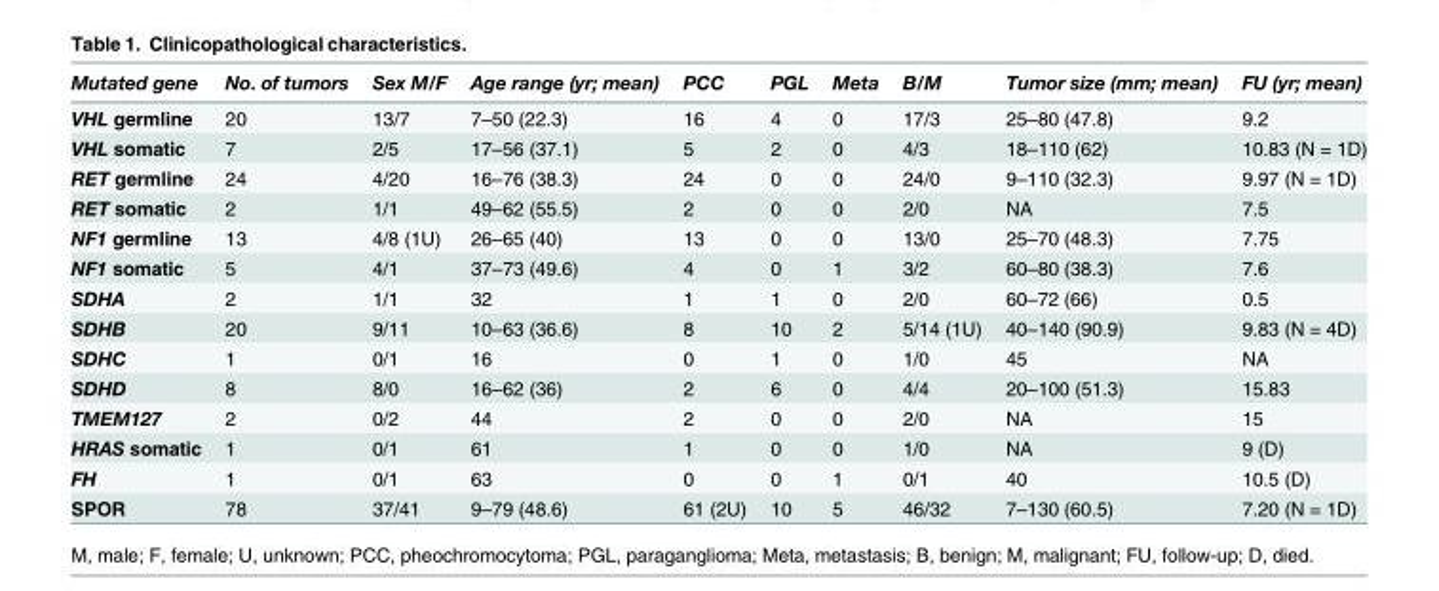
<table><thead><tr><td>Mutated gene</td><td>No. of tumors</td><td>Sex M/F</td><td>Age range (yr; mean)</td><td>PCC</td><td>PGL</td><td>Meta</td><td>B/M</td><td>Tumor size (mm; mean)</td><td>FU (yr; mean)</td></tr></thead><tbody><tr><td>VHL germline</td><td>20</td><td>13/7</td><td>7–50 (22.3)</td><td>16</td><td>4</td><td>0</td><td>17/3</td><td>25–80 (47.8)</td><td>9.2</td></tr><tr><td>VHL somatic</td><td>7</td><td>2/5</td><td>17–56 (37.1)</td><td>5</td><td>2</td><td>0</td><td>4/3</td><td>18–110 (62)</td><td>10.83 (N = 1D)</td></tr><tr><td>RET germline</td><td>24</td><td>4/20</td><td>16–76 (38.3)</td><td>24</td><td>0</td><td>0</td><td>24/0</td><td>9–110 (32.3)</td><td>9.97 (N = 1D)</td></tr><tr><td>RET somatic</td><td>2</td><td>1/1</td><td>49–62 (55.5)</td><td>2</td><td>0</td><td>0</td><td>2/0</td><td>NA</td><td>7.5</td></tr><tr><td>NF1 germline</td><td>13</td><td>4/8 (1U)</td><td>26–65 (40)</td><td>13</td><td>0</td><td>0</td><td>13/0</td><td>25–70 (48.3)</td><td>7.75</td></tr><tr><td>NF1 somatic</td><td>5</td><td>4/1</td><td>37–73 (49.6)</td><td>4</td><td>0</td><td>1</td><td>3/2</td><td>60–80 (38.3)</td><td>7.6</td></tr><tr><td>SDHA</td><td>2</td><td>1/1</td><td>32</td><td>1</td><td>1</td><td>0</td><td>2/0</td><td>60–72 (66)</td><td>0.5</td></tr><tr><td>SDHB</td><td>20</td><td>9/11</td><td>10–63 (36.6)</td><td>8</td><td>10</td><td>2</td><td>5/14 (1U)</td><td>40–140 (90.9)</td><td>9.83 (N = 4D)</td></tr><tr><td>SDHC</td><td>1</td><td>0/1</td><td>16</td><td>0</td><td>1</td><td>0</td><td>1/0</td><td>45</td><td>NA</td></tr><tr><td>SDHD</td><td>8</td><td>8/0</td><td>16–62 (36)</td><td>2</td><td>6</td><td>0</td><td>4/4</td><td>20–100 (51.3)</td><td>15.83</td></tr><tr><td>TMEM127</td><td>2</td><td>0/2</td><td>44</td><td>2</td><td>0</td><td>0</td><td>2/0</td><td>NA</td><td>15</td></tr><tr><td>HRAS somatic</td><td>1</td><td>0/1</td><td>61</td><td>1</td><td>0</td><td>0</td><td>1/0</td><td>NA</td><td>9 (D)</td></tr><tr><td>FH</td><td>1</td><td>0/1</td><td>63</td><td>0</td><td>0</td><td>1</td><td>0/1</td><td>40</td><td>10.5 (D)</td></tr><tr><td>SPOR</td><td>78</td><td>37/41</td><td>9–79 (48.6)</td><td>61 (2U)</td><td>10</td><td>5</td><td>46/32</td><td>7–130 (60.5)</td><td>7.20 (N = 1D)</td></tr></tbody></table>